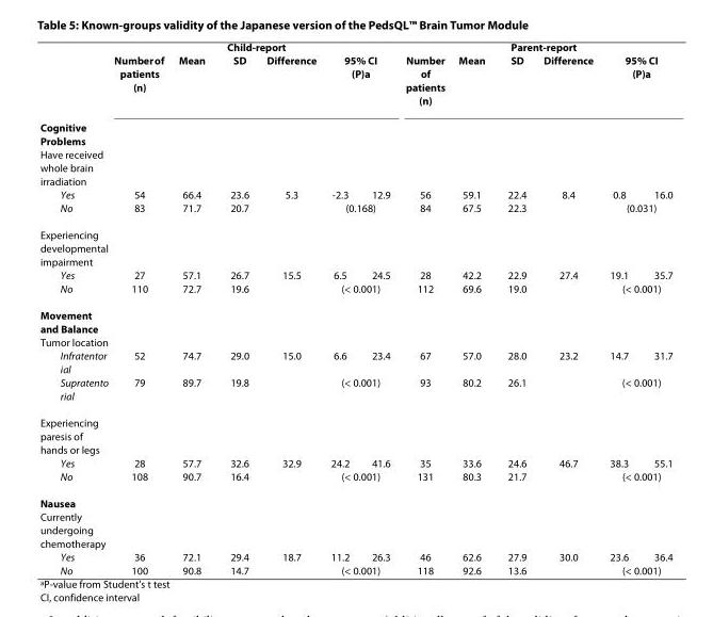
<table><thead><tr><td rowspan="3">Cognitive Problems</td><td colspan="6">Child-report</td><td colspan="6">Parent-report</td></tr><tr><td rowspan="2">Number of patients (n)</td><td rowspan="2">Mean</td><td rowspan="2">SD</td><td rowspan="2">Difference</td><td colspan="2">95% CI (P)<sup>a</sup></td><td rowspan="2">Number of patients (n)</td><td rowspan="2">Mean</td><td rowspan="2">SD</td><td rowspan="2">Difference</td><td colspan="2">95% CI (P)<sup>a</sup></td></tr><tr><td></td><td></td><td></td><td></td></tr></thead><tbody><tr><td colspan="13">Have received whole brain irradiation</td></tr><tr><td>Yes</td><td>54</td><td>66.4</td><td>23.6</td><td>5.3</td><td>-2.3</td><td>12.9</td><td>56</td><td>59.1</td><td>22.4</td><td>8.4</td><td>0.8</td><td>16.0</td></tr><tr><td>No</td><td>83</td><td>71.7</td><td>20.7</td><td></td><td colspan="2">(0.168)</td><td>84</td><td>67.5</td><td>22.3</td><td></td><td colspan="2">(0.031)</td></tr><tr><td colspan="13">Experiencing developmental impairment</td></tr><tr><td>Yes</td><td>27</td><td>57.1</td><td>26.7</td><td>15.5</td><td>6.5</td><td>24.5</td><td>28</td><td>42.2</td><td>22.9</td><td>27.4</td><td>19.1</td><td>35.7</td></tr><tr><td>No</td><td>110</td><td>72.7</td><td>19.6</td><td></td><td colspan="2">(&lt; 0.001)</td><td>112</td><td>69.6</td><td>19.0</td><td></td><td colspan="2">(&lt; 0.001)</td></tr><tr><td colspan="13">Movement and Balance</td></tr><tr><td colspan="13">Tumor location</td></tr><tr><td>Infratentor ial</td><td>52</td><td>74.7</td><td>29.0</td><td>15.0</td><td>6.6</td><td>23.4</td><td>67</td><td>57.0</td><td>28.0</td><td>23.2</td><td>14.7</td><td>31.7</td></tr><tr><td>Supratento rial</td><td>79</td><td>89.7</td><td>19.8</td><td></td><td colspan="2">(&lt; 0.001)</td><td>93</td><td>80.2</td><td>26.1</td><td></td><td colspan="2">(&lt; 0.001)</td></tr><tr><td colspan="13">Experiencing paresis of hands or legs</td></tr><tr><td>Yes</td><td>28</td><td>57.7</td><td>32.6</td><td>32.9</td><td>24.2</td><td>41.6</td><td>35</td><td>33.6</td><td>24.6</td><td>46.7</td><td>38.3</td><td>55.1</td></tr><tr><td>No</td><td>108</td><td>90.7</td><td>16.4</td><td></td><td colspan="2">(&lt; 0.001)</td><td>131</td><td>80.3</td><td>21.7</td><td></td><td colspan="2">(&lt; 0.001)</td></tr><tr><td colspan="13">Nausea</td></tr><tr><td colspan="13">Currently undergoing chemotherapy</td></tr><tr><td>Yes</td><td>36</td><td>72.1</td><td>29.4</td><td>18.7</td><td>11.2</td><td>26.3</td><td>46</td><td>62.6</td><td>27.9</td><td>30.0</td><td>23.6</td><td>36.4</td></tr><tr><td>No</td><td>100</td><td>90.8</td><td>14.7</td><td></td><td colspan="2">(&lt; 0.001)</td><td>118</td><td>92.6</td><td>13.6</td><td></td><td colspan="2">(&lt; 0.001)</td></tr></tbody></table>